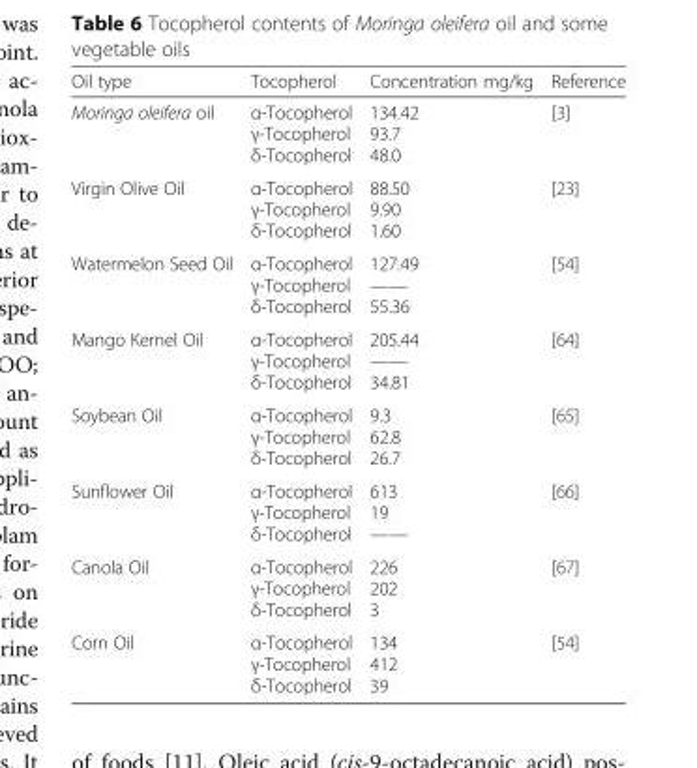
<table><thead><tr><td>Oil type</td><td>Tocopherol</td><td>Concentration mg/kg</td><td>Reference</td></tr></thead><tbody><tr><td>Moringa oleifera oil</td><td>α-Tocopherol γ-Tocopherol δ-Tocopherol</td><td>134.42 93.7 48.0</td><td>[3]</td></tr><tr><td>Virgin Olive Oil</td><td>α-Tocopherol γ-Tocopherol δ-Tocopherol</td><td>88.50 9.90 1.60</td><td>[23]</td></tr><tr><td>Watermelon Seed Oil</td><td>α-Tocopherol γ-Tocopherol δ-Tocopherol</td><td>127.49 —— 55.36</td><td>[54]</td></tr><tr><td>Mango Kernel Oil</td><td>α-Tocopherol γ-Tocopherol δ-Tocopherol</td><td>205.44 —— 34.81</td><td>[64]</td></tr><tr><td>Soybean Oil</td><td>α-Tocopherol γ-Tocopherol δ-Tocopherol</td><td>9.3 62.8 26.7</td><td>[65]</td></tr><tr><td>Sunflower Oil</td><td>α-Tocopherol γ-Tocopherol δ-Tocopherol</td><td>613 19 ——</td><td>[66]</td></tr><tr><td>Canola Oil</td><td>α-Tocopherol γ-Tocopherol δ-Tocopherol</td><td>226 202 3</td><td>[67]</td></tr><tr><td>Corn Oil</td><td>α-Tocopherol γ-Tocopherol δ-Tocopherol</td><td>134 412 39</td><td>[54]</td></tr></tbody></table>